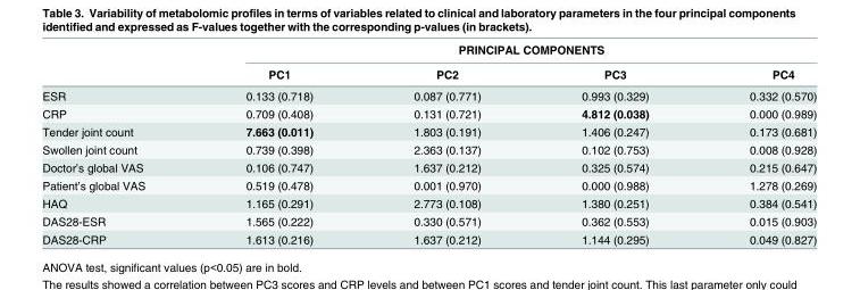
<table><thead><tr><td rowspan="2"></td><td colspan="4">PRINCIPAL COMPONENTS</td></tr><tr><td>PC1</td><td>PC2</td><td>PC3</td><td>PC4</td></tr></thead><tbody><tr><td>ESR</td><td>0.133 (0.718)</td><td>0.087 (0.771)</td><td>0.993 (0.329)</td><td>0.332 (0.570)</td></tr><tr><td>CRP</td><td>0.709 (0.408)</td><td>0.131 (0.721)</td><td>4.812 (0.038)</td><td>0.000 (0.989)</td></tr><tr><td>Tender joint count</td><td>7.663 (0.011)</td><td>1.803 (0.191)</td><td>1.406 (0.247)</td><td>0.173 (0.681)</td></tr><tr><td>Swollen joint count</td><td>0.739 (0.398)</td><td>2.363 (0.137)</td><td>0.102 (0.753)</td><td>0.008 (0.928)</td></tr><tr><td>Doctor’s global VAS</td><td>0.106 (0.747)</td><td>1.637 (0.212)</td><td>0.325 (0.574)</td><td>0.215 (0.647)</td></tr><tr><td>Patient’s global VAS</td><td>0.519 (0.478)</td><td>0.001 (0.970)</td><td>0.000 (0.988)</td><td>1.278 (0.269)</td></tr><tr><td>HAQ</td><td>1.165 (0.291)</td><td>2.773 (0.108)</td><td>1.380 (0.251)</td><td>0.384 (0.541)</td></tr><tr><td>DAS28-ESR</td><td>1.565 (0.222)</td><td>0.330 (0.571)</td><td>0.362 (0.553)</td><td>0.015 (0.903)</td></tr><tr><td>DAS28-CRP</td><td>1.613 (0.216)</td><td>1.637 (0.212)</td><td>1.144 (0.295)</td><td>0.049 (0.827)</td></tr></tbody></table>